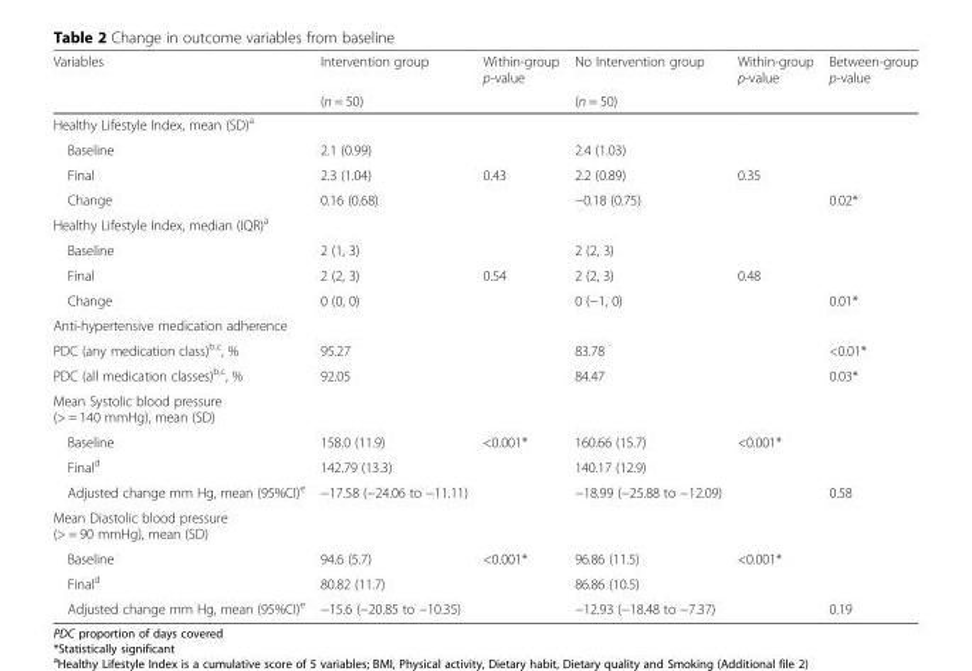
<table><thead><tr><td rowspan="2">Variables</td><td rowspan="2">Intervention group (n = 50)</td><td rowspan="2">Within-group p-value</td><td rowspan="2">No Intervention group (n = 50)</td><td rowspan="2">Within-group p-value</td><td rowspan="2">Between-group p-value</td></tr><tr></tr></thead><tbody><tr><td colspan="6">Healthy Lifestyle Index, mean (SD)<sup>a</sup></td></tr><tr><td>Baseline</td><td>2.1 (0.99)</td><td></td><td>2.4 (1.03)</td><td></td><td></td></tr><tr><td>Final</td><td>2.3 (1.04)</td><td>0.43</td><td>2.2 (0.89)</td><td>0.35</td><td></td></tr><tr><td>Change</td><td>0.16 (0.68)</td><td></td><td>−0.18 (0.75)</td><td></td><td>0.02*</td></tr><tr><td colspan="6">Healthy Lifestyle Index, median (IQR)<sup>a</sup></td></tr><tr><td>Baseline</td><td>2 (1, 3)</td><td></td><td>2 (2, 3)</td><td></td><td></td></tr><tr><td>Final</td><td>2 (2, 3)</td><td>0.54</td><td>2 (2, 3)</td><td>0.48</td><td></td></tr><tr><td>Change</td><td>0 (0, 0)</td><td></td><td>0 (−1, 0)</td><td></td><td>0.01*</td></tr><tr><td colspan="6">Anti-hypertensive medication adherence</td></tr><tr><td>PDC (any medication class)<sup>b,c</sup>, %</td><td>95.27</td><td></td><td>83.78</td><td></td><td>&lt;0.01*</td></tr><tr><td>PDC (all medication classes)<sup>b,c</sup>, %</td><td>92.05</td><td></td><td>84.47</td><td></td><td>0.03*</td></tr><tr><td colspan="6">Mean Systolic blood pressure (&gt; = 140 mmHg), mean (SD)</td></tr><tr><td>Baseline</td><td>158.0 (11.9)</td><td rowspan="3">&lt;0.001*</td><td>160.66 (15.7)</td><td rowspan="3">&lt;0.001*</td><td></td></tr><tr><td>Final<sup>d</sup></td><td>142.79 (13.3)</td><td>140.17 (12.9)</td><td></td></tr><tr><td>Adjusted change mm Hg, mean (95%CI)<sup>e</sup></td><td>−17.58 (−24.06 to −11.11)</td><td>−18.99 (−25.88 to −12.09)</td><td>0.58</td></tr><tr><td colspan="6">Mean Diastolic blood pressure (&gt; = 90 mmHg), mean (SD)</td></tr><tr><td>Baseline</td><td>94.6 (5.7)</td><td rowspan="3">&lt;0.001*</td><td>96.86 (11.5)</td><td rowspan="3">&lt;0.001*</td><td></td></tr><tr><td>Final<sup>d</sup></td><td>80.82 (11.7)</td><td>86.86 (10.5)</td><td></td></tr><tr><td>Adjusted change mm Hg, mean (95%CI)<sup>e</sup></td><td>−15.6 (−20.85 to −10.35)</td><td>−12.93 (−18.48 to −7.37)</td><td>0.19</td></tr></tbody></table>